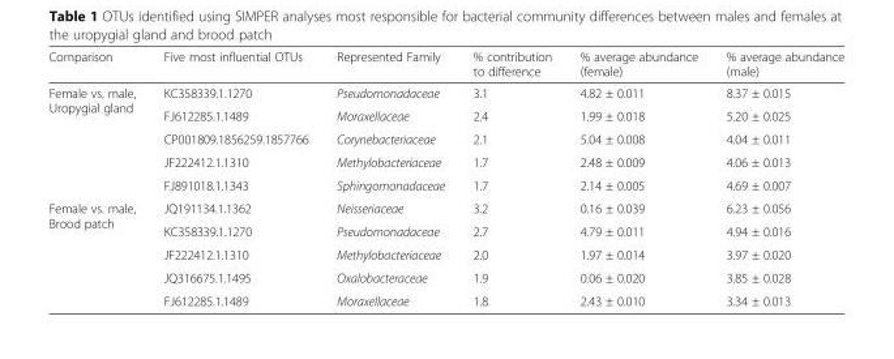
<table><thead><tr><td>Comparison</td><td>Five most influential OTUs</td><td>Represented Family</td><td>% contribution to difference</td><td>% average abundance (female)</td><td>% average abundance (male)</td></tr></thead><tbody><tr><td rowspan="5">Female vs. male, Uropygial gland</td><td>KC358339.1.1270</td><td>Pseudomonadaceae</td><td>3.1</td><td>4.82 ± 0.011</td><td>8.37 ± 0.015</td></tr><tr><td>FJ612285.1.1489</td><td>Moraxellaceae</td><td>2.4</td><td>1.99 ± 0.018</td><td>5.20 ± 0.025</td></tr><tr><td>CP001809.1856259.1857766</td><td>Corynebacteriaceae</td><td>2.1</td><td>5.04 ± 0.008</td><td>4.04 ± 0.011</td></tr><tr><td>JF222412.1.1310</td><td>Methylobacteriaceae</td><td>1.7</td><td>2.48 ± 0.009</td><td>4.06 ± 0.013</td></tr><tr><td>FJ891018.1.1343</td><td>Sphingomonadaceae</td><td>1.7</td><td>2.14 ± 0.005</td><td>4.69 ± 0.007</td></tr><tr><td rowspan="5">Female vs. male, Brood patch</td><td>JQ191134.1.1362</td><td>Neisseriaceae</td><td>3.2</td><td>0.16 ± 0.039</td><td>6.23 ± 0.056</td></tr><tr><td>KC358339.1.1270</td><td>Pseudomonadaceae</td><td>2.7</td><td>4.79 ± 0.011</td><td>4.94 ± 0.016</td></tr><tr><td>JF222412.1.1310</td><td>Methylobacteriaceae</td><td>2.0</td><td>1.97 ± 0.014</td><td>3.97 ± 0.020</td></tr><tr><td>JQ316675.1.1495</td><td>Oxalobacteraceae</td><td>1.9</td><td>0.06 ± 0.020</td><td>3.85 ± 0.028</td></tr><tr><td>FJ612285.1.1489</td><td>Moraxellaceae</td><td>1.8</td><td>2.43 ± 0.010</td><td>3.34 ± 0.013</td></tr></tbody></table>